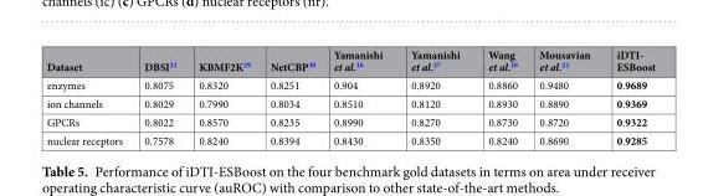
<table><thead><tr><td>Dataset</td><td>DBSI<sup>21</sup></td><td>KBMF2K<sup>29</sup></td><td>NetCBP<sup>30</sup></td><td>Yamanishi et al.<sup>16</sup></td><td>Yamanishi et al.<sup>27</sup></td><td>Wang et al.<sup>18</sup></td><td>Mousavian et al.<sup>22</sup></td><td>iDTI- ESBoost</td></tr></thead><tbody><tr><td>enzymes</td><td>0.8075</td><td>0.8320</td><td>0.8251</td><td>0.904</td><td>0.8920</td><td>0.8860</td><td>0.9480</td><td>0.9689</td></tr><tr><td>ion channels</td><td>0.8029</td><td>0.7990</td><td>0.8034</td><td>0.8510</td><td>0.8120</td><td>0.8930</td><td>0.8890</td><td>0.9369</td></tr><tr><td>GPCRs</td><td>0.8022</td><td>0.8570</td><td>0.8235</td><td>0.8990</td><td>0.8270</td><td>0.8730</td><td>0.8720</td><td>0.9322</td></tr><tr><td>nuclear receptors</td><td>0.7578</td><td>0.8240</td><td>0.8394</td><td>0.8430</td><td>0.8350</td><td>0.8240</td><td>0.8690</td><td>0.9285</td></tr></tbody></table>